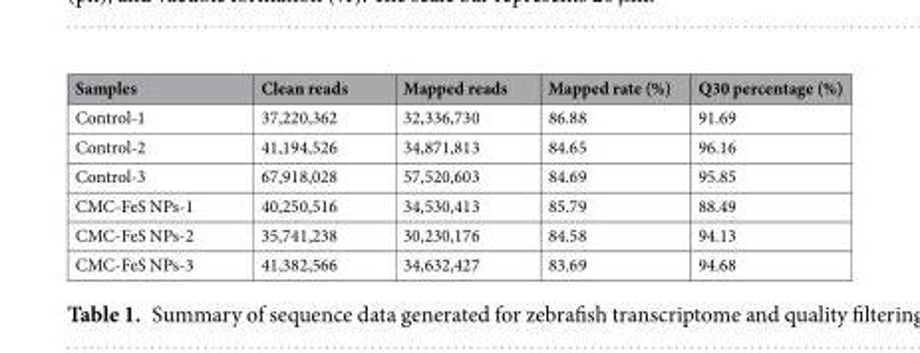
<table><thead><tr><td>Samples</td><td>Clean reads</td><td>Mapped reads</td><td>Mapped rate (%)</td><td>Q30 percentage (%)</td></tr></thead><tbody><tr><td>Control-1</td><td>37,220,362</td><td>32,336,730</td><td>86.88</td><td>91.69</td></tr><tr><td>Control-2</td><td>41,194,526</td><td>34,871,813</td><td>84.65</td><td>96.16</td></tr><tr><td>Control-3</td><td>67,918,028</td><td>57,520,603</td><td>84.69</td><td>95.85</td></tr><tr><td>CMC-FeS NPs-1</td><td>40,250,516</td><td>34,530,413</td><td>85.79</td><td>88.49</td></tr><tr><td>CMC-FeS NPs-2</td><td>35,741,238</td><td>30,230,176</td><td>84.58</td><td>94.13</td></tr><tr><td>CMC-FeS NPs-3</td><td>41,382,566</td><td>34,632,427</td><td>83.69</td><td>94.68</td></tr></tbody></table>